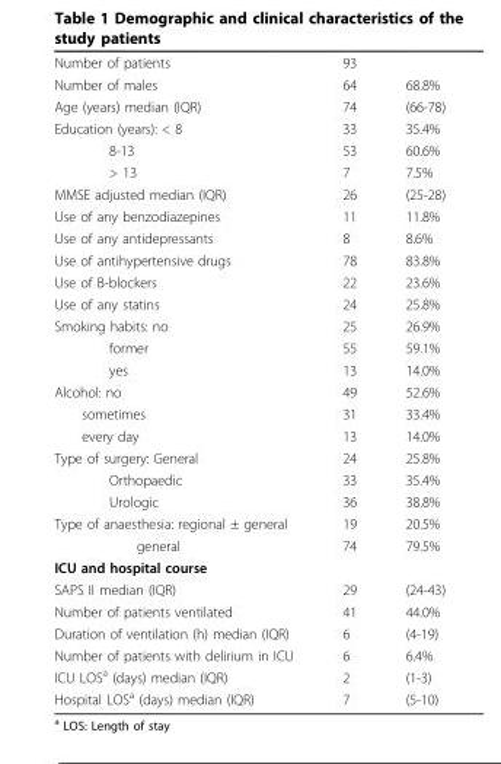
<table><tbody><tr><td>Number of patients</td><td>93</td><td></td></tr><tr><td>Number of males</td><td>64</td><td>68.8%</td></tr><tr><td>Age (years) median (IQR)</td><td>74</td><td>(66-78)</td></tr><tr><td>Education (years): &lt; 8</td><td>33</td><td>35.4%</td></tr><tr><td>8-13</td><td>53</td><td>60.6%</td></tr><tr><td>&gt; 13</td><td>7</td><td>7.5%</td></tr><tr><td>MMSE adjusted median (IQR)</td><td>26</td><td>(25-28)</td></tr><tr><td>Use of any benzodiazepines</td><td>11</td><td>11.8%</td></tr><tr><td>Use of any antidepressants</td><td>8</td><td>8.6%</td></tr><tr><td>Use of antihypertensive drugs</td><td>78</td><td>83.8%</td></tr><tr><td>Use of B-blockers</td><td>22</td><td>23.6%</td></tr><tr><td>Use of any statins</td><td>24</td><td>25.8%</td></tr><tr><td>Smoking habits: no</td><td>25</td><td>26.9%</td></tr><tr><td>former</td><td>55</td><td>59.1%</td></tr><tr><td>yes</td><td>13</td><td>14.0%</td></tr><tr><td>Alcohol: no</td><td>49</td><td>52.6%</td></tr><tr><td>sometimes</td><td>31</td><td>33.4%</td></tr><tr><td>every day</td><td>13</td><td>14.0%</td></tr><tr><td>Type of surgery: General</td><td>24</td><td>25.8%</td></tr><tr><td>Orthopaedic</td><td>33</td><td>35.4%</td></tr><tr><td>Urologic</td><td>36</td><td>38.8%</td></tr><tr><td>Type of anaesthesia: regional ± general</td><td>19</td><td>20.5%</td></tr><tr><td>general</td><td>74</td><td>79.5%</td></tr><tr><td colspan="3">ICU and hospital course</td></tr><tr><td>SAPS II median (IQR)</td><td>29</td><td>(24-43)</td></tr><tr><td>Number of patients ventilated</td><td>41</td><td>44.0%</td></tr><tr><td>Duration of ventilation (h) median (IQR)</td><td>6</td><td>(4-19)</td></tr><tr><td>Number of patients with delirium in ICU</td><td>6</td><td>6.4%</td></tr><tr><td>ICU LOS<sup>a</sup> (days) median (IQR)</td><td>2</td><td>(1-3)</td></tr><tr><td>Hospital LOS<sup>a</sup> (days) median (IQR)</td><td>7</td><td>(5-10)</td></tr></tbody></table>